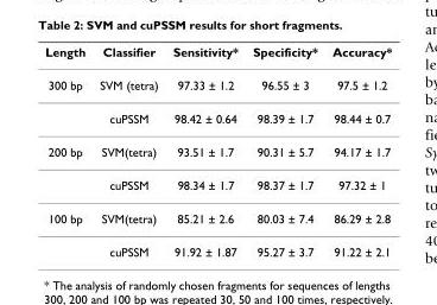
<table><thead><tr><td>Length</td><td>Classifier</td><td>Sensitivity*</td><td>Specificity*</td><td>Accuracy*</td></tr></thead><tbody><tr><td rowspan="2">300 bp</td><td>SVM (tetra)</td><td>97.33 ± 1.2</td><td>96.55 ± 3</td><td>97.5 ± 1.2</td></tr><tr><td>cuPSSM</td><td>98.42 ± 0.64</td><td>98.39 ± 1.7</td><td>98.44 ± 0.7</td></tr><tr><td rowspan="2">200 bp</td><td>SVM(tetra)</td><td>93.51 ± 1.7</td><td>90.31 ± 5.7</td><td>94.17 ± 1.7</td></tr><tr><td>cuPSSM</td><td>98.34 ± 1.7</td><td>98.37 ± 1.7</td><td>97.32 ± 1</td></tr><tr><td rowspan="2">100 bp</td><td>SVM(tetra)</td><td>85.21 ± 2.6</td><td>80.03 ± 7.4</td><td>86.29 ± 2.8</td></tr><tr><td>cuPSSM</td><td>91.92 ± 1.87</td><td>95.27 ± 3.7</td><td>91.22 ± 2.1</td></tr></tbody></table>